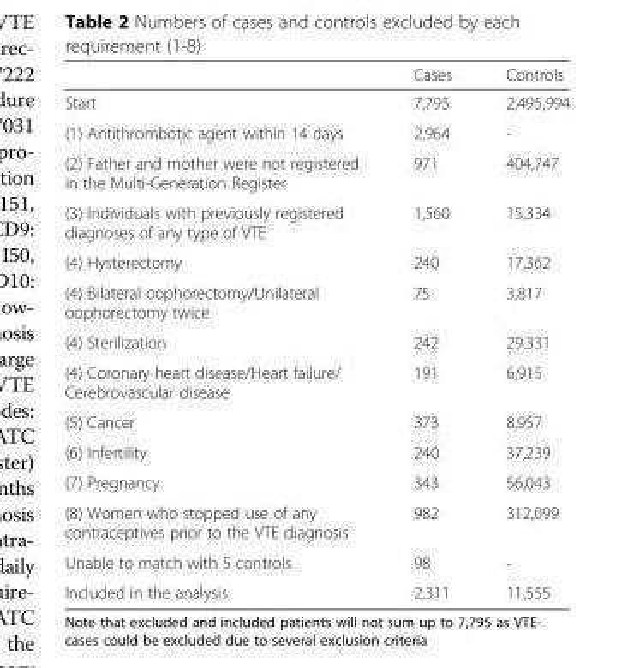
<table><thead><tr><td></td><td>Cases</td><td>Controls</td></tr></thead><tbody><tr><td>Start</td><td>7,795</td><td>2,495,994</td></tr><tr><td>(1) Antithrombotic agent within 14 days</td><td>2,964</td><td>-</td></tr><tr><td>(2) Father and mother were not registered in the Multi-Generation Register</td><td>971</td><td>404,747</td></tr><tr><td>(3) Individuals with previously registered diagnoses of any type of VTE</td><td>1,560</td><td>15,334</td></tr><tr><td>(4) Hysterectomy</td><td>240</td><td>17,362</td></tr><tr><td>(4) Bilateral oophorectomy/Unilateral oophorectomy twice</td><td>75</td><td>3,817</td></tr><tr><td>(4) Sterilization</td><td>242</td><td>29.331</td></tr><tr><td>(4) Coronary heart disease/Heart failure/ Cerebrovascular disease</td><td>191</td><td>6,915</td></tr><tr><td>(5) Cancer</td><td>373</td><td>8,957</td></tr><tr><td>(6) Infertility</td><td>240</td><td>37,239</td></tr><tr><td>(7) Pregnancy</td><td>343</td><td>56,043</td></tr><tr><td>(8) Women who stopped use of any contraceptives prior to the VTE diagnosis</td><td>982</td><td>312,099</td></tr><tr><td>Unable to match with 5 controls</td><td>98</td><td>-</td></tr><tr><td>Included in the analysis</td><td>2,311</td><td>11,555</td></tr></tbody></table>